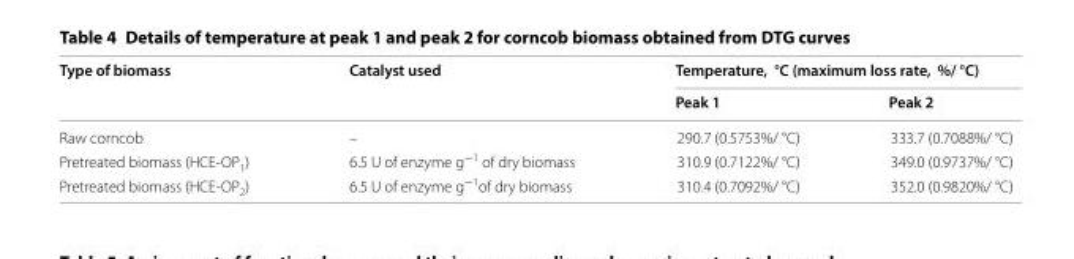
<table><thead><tr><td rowspan="2">Type of biomass</td><td rowspan="2">Catalyst used</td><td colspan="2">Temperature, °C (maximum loss rate, %/ °C)</td></tr><tr><td>Peak 1</td><td>Peak 2</td></tr></thead><tbody><tr><td>Raw corncob</td><td>–</td><td>290.7 (0.5753%/ °C)</td><td>333.7 (0.7088%/ °C)</td></tr><tr><td>Pretreated biomass (HCE-OP<sub>1</sub>)</td><td>6.5 U of enzyme g<sup>−1</sup> of dry biomass</td><td>310.9 (0.7122%/ °C)</td><td>349.0 (0.9737%/ °C)</td></tr><tr><td>Pretreated biomass (HCE-OP<sub>2</sub>)</td><td>6.5 U of enzyme g<sup>−1</sup>of dry biomass</td><td>310.4 (0.7092%/ °C)</td><td>352.0 (0.9820%/ °C)</td></tr></tbody></table>